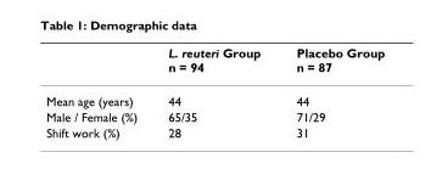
<table><thead><tr><td></td><td>L. reuteri Group n = 94</td><td>Placebo Group n = 87</td></tr></thead><tbody><tr><td>Mean age (years)</td><td>44</td><td>44</td></tr><tr><td>Male / Female (%)</td><td>65/35</td><td>71/29</td></tr><tr><td>Shift work (%)</td><td>28</td><td>31</td></tr></tbody></table>